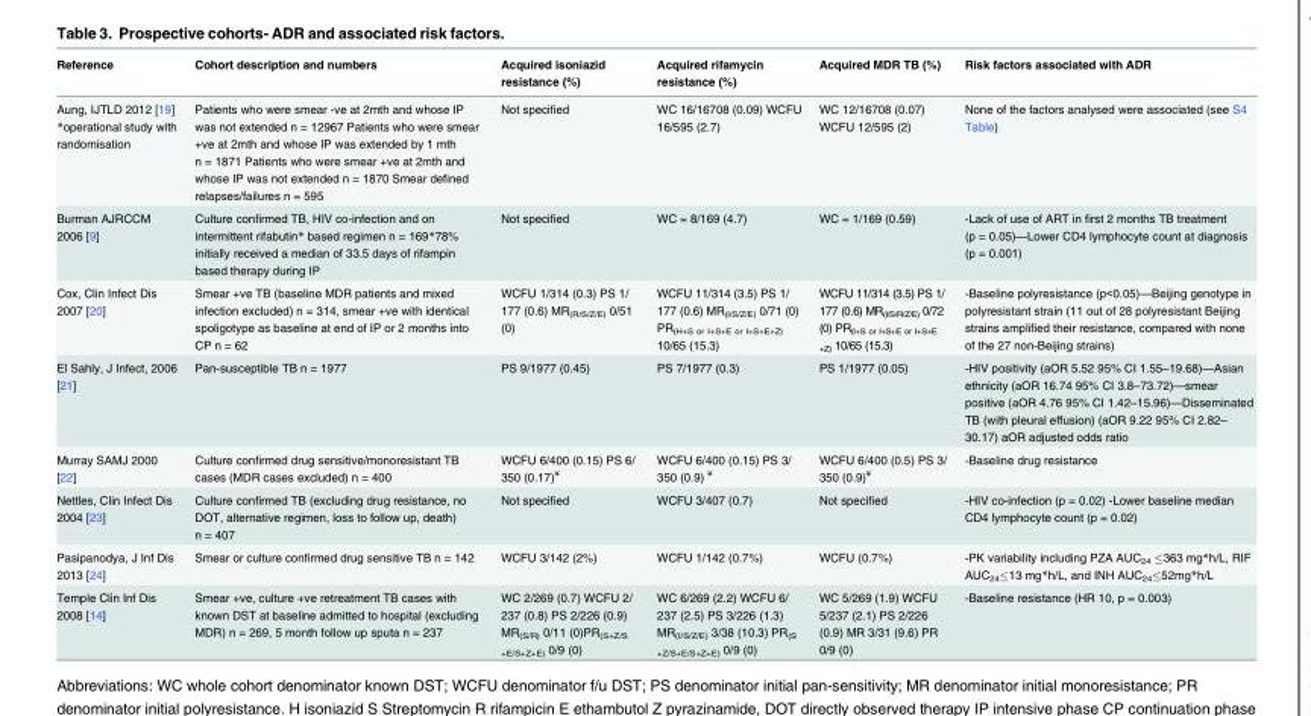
<table><thead><tr><td>Reference</td><td>Cohort description and numbers</td><td>Acquired isoniazid resistance (%)</td><td>Acquired rifamycin resistance (%)</td><td>Acquired MDR TB (%)</td><td>Risk factors associated with ADR</td></tr></thead><tbody><tr><td>Aung, IJTLD 2012 [19] *operational study with randomisation</td><td>Patients who were smear -ve at 2mth and whose IP was not extended n = 12967 Patients who were smear +ve at 2mth and whose IP was extended by 1 mth n = 1871 Patients who were smear +ve at 2mth and whose IP was not extended n = 1870 Smear defined relapses/failures n = 595</td><td>Not specified</td><td>WC 16/16708 (0.09) WCFU 16/595 (2.7)</td><td>WC 12/16708 (0.07) WCFU 12/595 (2)</td><td>None of the factors analysed were associated (see S4 Table)</td></tr><tr><td>Burman AJRCCM 2006 [9]</td><td>Culture confirmed TB, HIV co-infection and on intermittent rifabutin* based regimen n = 169*78% initially received a median of 33.5 days of rifampin based therapy during IP</td><td>Not specified</td><td>WC = 8/169 (4.7)</td><td>WC = 1/169 (0.59)</td><td>-Lack of use of ART in first 2 months TB treatment (p = 0.05)—Lower CD4 lymphocyte count at diagnosis (p = 0.001)</td></tr><tr><td>Cox, Clin Infect Dis 2007 [20]</td><td>Smear +ve TB (baseline MDR patients and mixed infection excluded) n = 314, smear +ve with identical spoligotype as baseline at end of IP or 2 months into CP n = 62</td><td>WCFU 1/314 (0.3) PS 1/ 177 (0.6) MR<sub>(R/S/Z/E)</sub> 0/51 (0)</td><td>WCFU 11/314 (3.5) PS 1/ 177 (0.6) MR<sub>(I/S/Z/E)</sub> 0/71 (0) PR<sub>(H+S or I+S+E or I+S+E+Z)</sub> 10/65 (15.3)</td><td>WCFU 11/314 (3.5) PS 1/ 177 (0.6) MR<sub>(I/S/R/Z/E)</sub> 0/72 (0) PR<sub>(I+S or I+S+E or I+S+E +Z)</sub> 10/65 (15.3)</td><td>-Baseline polyresistance (p&lt;0.05)—Beijing genotype in polyresistant strain (11 out of 28 polyresistant Beijing strains amplified their resistance, compared with none of the 27 non-Beijing strains)</td></tr><tr><td>El Sahly, J Infect, 2006 [21]</td><td>Pan-susceptible TB n = 1977</td><td>PS 9/1977 (0.45)</td><td>PS 7/1977 (0.3)</td><td>PS 1/1977 (0.05)</td><td>-HIV positivity (aOR 5.52 95% CI 1.55–19.68)—Asian ethnicity (aOR 16.74 95% CI 3.8–73.72)—smear positive (aOR 4.76 95% CI 1.42–15.96)—Disseminated TB (with pleural effusion) (aOR 9.22 95% CI 2.82– 30.17) aOR adjusted odds ratio</td></tr><tr><td>Murray SAMJ 2000 [22]</td><td>Culture confirmed drug sensitive/monoresistant TB cases (MDR cases excluded) n = 400</td><td>WCFU 6/400 (0.15) PS 6/ 350 (0.17)<sup>¥</sup></td><td>WCFU 6/400 (0.15) PS 3/ 350 (0.9) <sup>¥</sup></td><td>WCFU 6/400 (0.5) PS 3/ 350 (0.9)<sup>¥</sup></td><td>-Baseline drug resistance</td></tr><tr><td>Nettles, Clin Infect Dis 2004 [23]</td><td>Culture confirmed TB (excluding drug resistance, no DOT, alternative regimen, loss to follow up, death) n = 407</td><td>Not specified</td><td>WCFU 3/407 (0.7)</td><td>Not specified</td><td>-HIV co-infection (p = 0.02) -Lower baseline median CD4 lymphocyte count (p = 0.02)</td></tr><tr><td>Pasipanodya, J Inf Dis 2013 [24]</td><td>Smear or culture confirmed drug sensitive TB n = 142</td><td>WCFU 3/142 (2%)</td><td>WCFU 1/142 (0.7%)</td><td>WCFU (0.7%)</td><td>-PK variability including PZA AUC<sub>24</sub> ≤363 mg*h/L, RIF AUC<sub>24</sub>≤13 mg*h/L, and INH AUC<sub>24</sub>≤52mg*h/L</td></tr><tr><td>Temple Clin Inf Dis 2008 [14]</td><td>Smear +ve, culture +ve retreatment TB cases with known DST at baseline admitted to hospital (excluding MDR) n = 269, 5 month follow up sputa n = 237</td><td>WC 2/269 (0.7) WCFU 2/ 237 (0.8) PS 2/226 (0.9) MR<sub>(S/R)</sub> 0/11 (0)PR<sub>(S+Z/S +E/S+Z+E)</sub> 0/9 (0)</td><td>WC 6/269 (2.2) WCFU 6/ 237 (2.5) PS 3/226 (1.3) MR<sub>(I/S/Z/E)</sub> 3/38 (10.3) PR<sub>(S +Z/S+E/S+Z+E)</sub> 0/9 (0)</td><td>WC 5/269 (1.9) WCFU 5/237 (2.1) PS 2/226 (0.9) MR 3/31 (9.6) PR 0/9 (0)</td><td>-Baseline resistance (HR 10, p = 0.003)</td></tr></tbody></table>